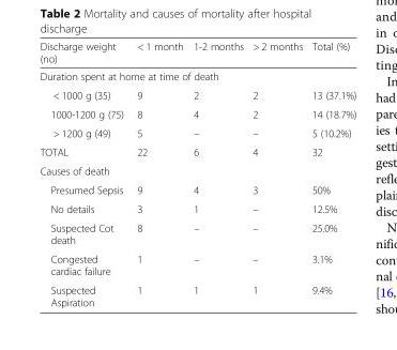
<table><thead><tr><td>Discharge weight (no)</td><td>&lt; 1 month</td><td>1-2 months</td><td>&gt; 2 months</td><td>Total (%)</td></tr></thead><tbody><tr><td colspan="5">Duration spent at home at time of death</td></tr><tr><td>&lt; 1000 g (35)</td><td>9</td><td>2</td><td>2</td><td>13 (37.1%)</td></tr><tr><td>1000-1200 g (75)</td><td>8</td><td>4</td><td>2</td><td>14 (18.7%)</td></tr><tr><td>&gt; 1200 g (49)</td><td>5</td><td>–</td><td>–</td><td>5 (10.2%)</td></tr><tr><td>TOTAL</td><td>22</td><td>6</td><td>4</td><td>32</td></tr><tr><td colspan="5">Causes of death</td></tr><tr><td>Presumed Sepsis</td><td>9</td><td>4</td><td>3</td><td>50%</td></tr><tr><td>No details</td><td>3</td><td>1</td><td>–</td><td>12.5%</td></tr><tr><td>Suspected Cot death</td><td>8</td><td>–</td><td>–</td><td>25.0%</td></tr><tr><td>Congested cardiac failure</td><td>1</td><td>–</td><td>–</td><td>3.1%</td></tr><tr><td>Suspected Aspiration</td><td>1</td><td>1</td><td>1</td><td>9.4%</td></tr></tbody></table>